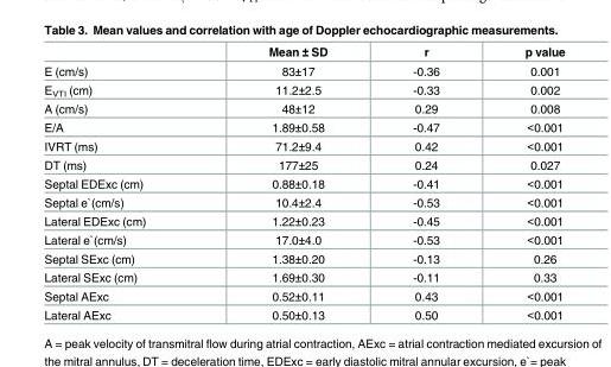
<table><thead><tr><td></td><td>Mean ± SD</td><td>r</td><td>p value</td></tr></thead><tbody><tr><td>E (cm/s)</td><td>83±17</td><td>-0.36</td><td>0.001</td></tr><tr><td>E<sub>VTI</sub> (cm)</td><td>11.2±2.5</td><td>-0.33</td><td>0.002</td></tr><tr><td>A (cm/s)</td><td>48±12</td><td>0.29</td><td>0.008</td></tr><tr><td>E/A</td><td>1.89±0.58</td><td>-0.47</td><td>&lt;0.001</td></tr><tr><td>IVRT (ms)</td><td>71.2±9.4</td><td>0.42</td><td>&lt;0.001</td></tr><tr><td>DT (ms)</td><td>177±25</td><td>0.24</td><td>0.027</td></tr><tr><td>Septal EDExc (cm)</td><td>0.88±0.18</td><td>-0.41</td><td>&lt;0.001</td></tr><tr><td>Septal e`(cm/s)</td><td>10.4±2.4</td><td>-0.53</td><td>&lt;0.001</td></tr><tr><td>Lateral EDExc (cm)</td><td>1.22±0.23</td><td>-0.45</td><td>&lt;0.001</td></tr><tr><td>Lateral e`(cm/s)</td><td>17.0±4.0</td><td>-0.53</td><td>&lt;0.001</td></tr><tr><td>Septal SExc (cm)</td><td>1.38±0.20</td><td>-0.13</td><td>0.26</td></tr><tr><td>Lateral SExc (cm)</td><td>1.69±0.30</td><td>-0.11</td><td>0.33</td></tr><tr><td>Septal AExc</td><td>0.52±0.11</td><td>0.43</td><td>&lt;0.001</td></tr><tr><td>Lateral AExc</td><td>0.50±0.13</td><td>0.50</td><td>&lt;0.001</td></tr></tbody></table>